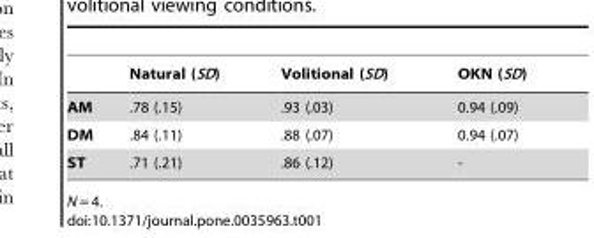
<table><thead><tr><td></td><td>Natural (SD)</td><td>Volitional (SD)</td><td>OKN (SD)</td></tr></thead><tbody><tr><td>AM</td><td>.78 (.15)</td><td>.93 (.03)</td><td>0.94 (.09)</td></tr><tr><td>DM</td><td>.84 (.11)</td><td>.88 (.07)</td><td>0.94 (.07)</td></tr><tr><td>ST</td><td>.71 (.21)</td><td>.86 (.12)</td><td>-</td></tr></tbody></table>